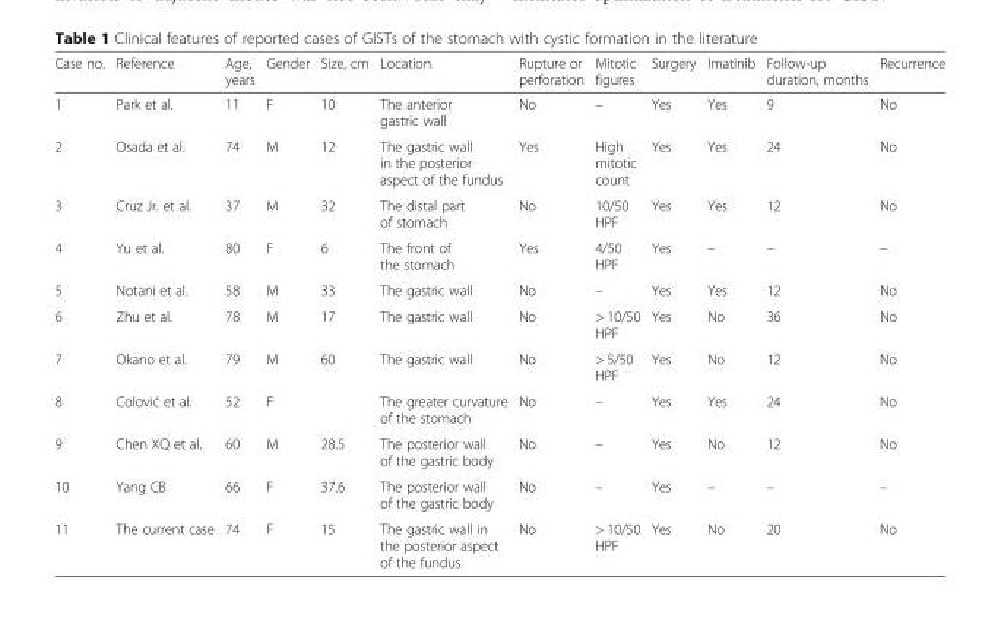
<table><thead><tr><td>Case no.</td><td>Reference</td><td>Age, years</td><td>Gender</td><td>Size, cm</td><td>Location</td><td>Rupture or perforation</td><td>Mitotic figures</td><td>Surgery</td><td>Imatinib</td><td>Follow-up duration, months</td><td>Recurrence</td></tr></thead><tbody><tr><td>1</td><td>Park et al.</td><td>11</td><td>F</td><td>10</td><td>The anterior gastric wall</td><td>No</td><td>–</td><td>Yes</td><td>Yes</td><td>9</td><td>No</td></tr><tr><td>2</td><td>Osada et al.</td><td>74</td><td>M</td><td>12</td><td>The gastric wall in the posterior aspect of the fundus</td><td>Yes</td><td>High mitotic count</td><td>Yes</td><td>Yes</td><td>24</td><td>No</td></tr><tr><td>3</td><td>Cruz Jr. et al.</td><td>37</td><td>M</td><td>32</td><td>The distal part of stomach</td><td>No</td><td>10/50 HPF</td><td>Yes</td><td>Yes</td><td>12</td><td>No</td></tr><tr><td>4</td><td>Yu et al.</td><td>80</td><td>F</td><td>6</td><td>The front of the stomach</td><td>Yes</td><td>4/50 HPF</td><td>Yes</td><td>–</td><td>–</td><td>–</td></tr><tr><td>5</td><td>Notani et al.</td><td>58</td><td>M</td><td>33</td><td>The gastric wall</td><td>No</td><td>–</td><td>Yes</td><td>Yes</td><td>12</td><td>No</td></tr><tr><td>6</td><td>Zhu et al.</td><td>78</td><td>M</td><td>17</td><td>The gastric wall</td><td>No</td><td>&gt; 10/50 HPF</td><td>Yes</td><td>No</td><td>36</td><td>No</td></tr><tr><td>7</td><td>Okano et al.</td><td>79</td><td>M</td><td>60</td><td>The gastric wall</td><td>No</td><td>&gt; 5/50 HPF</td><td>Yes</td><td>No</td><td>12</td><td>No</td></tr><tr><td>8</td><td>Colović et al.</td><td>52</td><td>F</td><td></td><td>The greater curvature of the stomach</td><td>No</td><td>–</td><td>Yes</td><td>Yes</td><td>24</td><td>No</td></tr><tr><td>9</td><td>Chen XQ et al.</td><td>60</td><td>M</td><td>28.5</td><td>The posterior wall of the gastric body</td><td>No</td><td>–</td><td>Yes</td><td>No</td><td>12</td><td>No</td></tr><tr><td>10</td><td>Yang CB</td><td>66</td><td>F</td><td>37.6</td><td>The posterior wall of the gastric body</td><td>No</td><td>–</td><td>Yes</td><td>–</td><td>–</td><td>–</td></tr><tr><td>11</td><td>The current case</td><td>74</td><td>F</td><td>15</td><td>The gastric wall in the posterior aspect of the fundus</td><td>No</td><td>&gt; 10/50 HPF</td><td>Yes</td><td>No</td><td>20</td><td>No</td></tr></tbody></table>